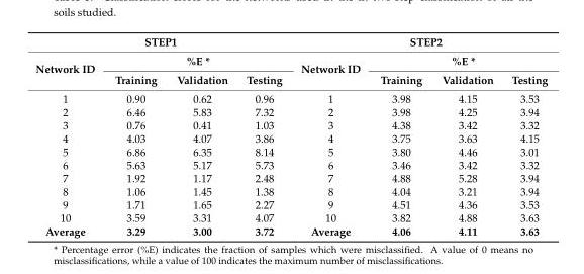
<table><thead><tr><td colspan="4">STEP1</td><td colspan="4">STEP2</td></tr><tr><td rowspan="2">Network ID</td><td colspan="3">%E *</td><td rowspan="2">Network ID</td><td colspan="3">%E *</td></tr><tr><td>Training</td><td>Validation</td><td>Testing</td><td>Training</td><td>Validation</td><td>Testing</td></tr></thead><tbody><tr><td>1</td><td>0.90</td><td>0.62</td><td>0.96</td><td>1</td><td>3.98</td><td>4.15</td><td>3.53</td></tr><tr><td>2</td><td>6.46</td><td>5.83</td><td>7.32</td><td>2</td><td>3.98</td><td>4.25</td><td>3.94</td></tr><tr><td>3</td><td>0.76</td><td>0.41</td><td>1.03</td><td>3</td><td>4.38</td><td>3.42</td><td>3.32</td></tr><tr><td>4</td><td>4.03</td><td>4.07</td><td>3.86</td><td>4</td><td>3.75</td><td>3.63</td><td>4.15</td></tr><tr><td>5</td><td>6.86</td><td>6.35</td><td>8.14</td><td>5</td><td>3.80</td><td>4.46</td><td>3.01</td></tr><tr><td>6</td><td>5.63</td><td>5.17</td><td>5.73</td><td>6</td><td>3.46</td><td>3.42</td><td>3.32</td></tr><tr><td>7</td><td>1.92</td><td>1.17</td><td>2.48</td><td>7</td><td>4.88</td><td>5.28</td><td>3.94</td></tr><tr><td>8</td><td>1.06</td><td>1.45</td><td>1.38</td><td>8</td><td>4.04</td><td>3.21</td><td>3.94</td></tr><tr><td>9</td><td>1.71</td><td>1.65</td><td>2.27</td><td>9</td><td>4.51</td><td>4.36</td><td>3.53</td></tr><tr><td>10</td><td>3.59</td><td>3.31</td><td>4.07</td><td>10</td><td>3.82</td><td>4.88</td><td>3.63</td></tr><tr><td>Average</td><td>3.29</td><td>3.00</td><td>3.72</td><td>Average</td><td>4.06</td><td>4.11</td><td>3.63</td></tr></tbody></table>